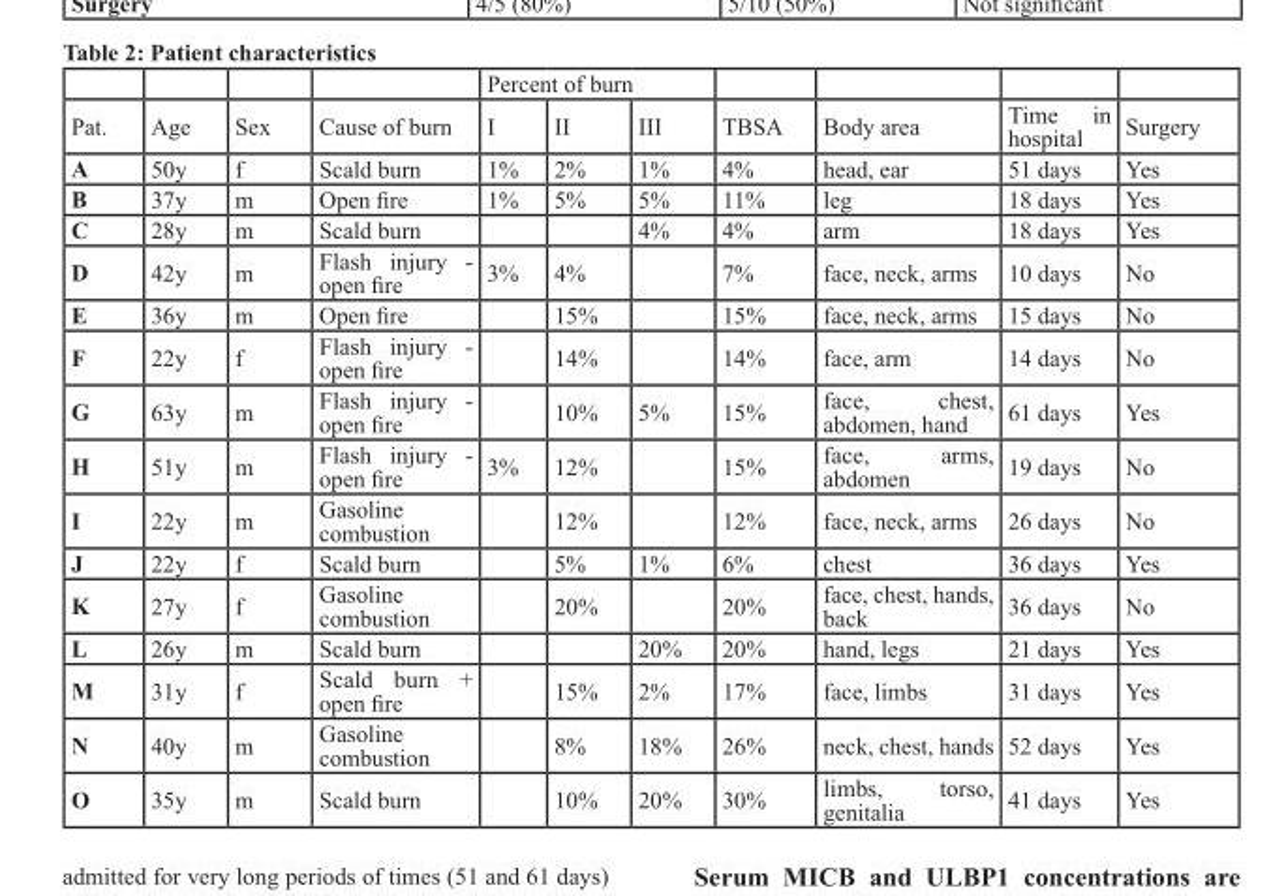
<table><thead><tr><td rowspan="2">Pat.</td><td rowspan="2">Age</td><td rowspan="2">Sex</td><td rowspan="2">Cause of burn</td><td colspan="3">Percent of burn</td><td rowspan="2">TBSA</td><td rowspan="2">Body area</td><td rowspan="2">Time in hospital</td><td rowspan="2">Surgery</td></tr><tr><td>I</td><td>II</td><td>III</td></tr></thead><tbody><tr><td>A</td><td>50y</td><td>f</td><td>Scald burn</td><td>1%</td><td>2%</td><td>1%</td><td>4%</td><td>head, ear</td><td>51 days</td><td>Yes</td></tr><tr><td>B</td><td>37y</td><td>m</td><td>Open fire</td><td>1%</td><td>5%</td><td>5%</td><td>11%</td><td>leg</td><td>18 days</td><td>Yes</td></tr><tr><td>C</td><td>28y</td><td>m</td><td>Scald burn</td><td></td><td></td><td>4%</td><td>4%</td><td>arm</td><td>18 days</td><td>Yes</td></tr><tr><td>D</td><td>42y</td><td>m</td><td>Flash injury - open fire</td><td>3%</td><td>4%</td><td></td><td>7%</td><td>face, neck, arms</td><td>10 days</td><td>No</td></tr><tr><td>E</td><td>36y</td><td>m</td><td>Open fire</td><td></td><td>15%</td><td></td><td>15%</td><td>face, neck, arms</td><td>15 days</td><td>No</td></tr><tr><td>F</td><td>22y</td><td>f</td><td>Flash injury - open fire</td><td></td><td>14%</td><td></td><td>14%</td><td>face, arm</td><td>14 days</td><td>No</td></tr><tr><td>G</td><td>63y</td><td>m</td><td>Flash injury - open fire</td><td></td><td>10%</td><td>5%</td><td>15%</td><td>face, chest, abdomen, hand</td><td>61 days</td><td>Yes</td></tr><tr><td>H</td><td>51y</td><td>m</td><td>Flash injury - open fire</td><td>3%</td><td>12%</td><td></td><td>15%</td><td>face, arms, abdomen</td><td>19 days</td><td>No</td></tr><tr><td>I</td><td>22y</td><td>m</td><td>Gasoline combustion</td><td></td><td>12%</td><td></td><td>12%</td><td>face, neck, arms</td><td>26 days</td><td>No</td></tr><tr><td>J</td><td>22y</td><td>f</td><td>Scald burn</td><td></td><td>5%</td><td>1%</td><td>6%</td><td>chest</td><td>36 days</td><td>Yes</td></tr><tr><td>K</td><td>27y</td><td>f</td><td>Gasoline combustion</td><td></td><td>20%</td><td></td><td>20%</td><td>face, chest, hands, back</td><td>36 days</td><td>No</td></tr><tr><td>L</td><td>26y</td><td>m</td><td>Scald burn</td><td></td><td></td><td>20%</td><td>20%</td><td>hand, legs</td><td>21 days</td><td>Yes</td></tr><tr><td>M</td><td>31y</td><td>f</td><td>Scald burn + open fire</td><td></td><td>15%</td><td>2%</td><td>17%</td><td>face, limbs</td><td>31 days</td><td>Yes</td></tr><tr><td>N</td><td>40y</td><td>m</td><td>Gasoline combustion</td><td></td><td>8%</td><td>18%</td><td>26%</td><td>neck, chest, hands</td><td>52 days</td><td>Yes</td></tr><tr><td>O</td><td>35y</td><td>m</td><td>Scald burn</td><td></td><td>10%</td><td>20%</td><td>30%</td><td>limbs, torso, genitalia</td><td>41 days</td><td>Yes</td></tr></tbody></table>